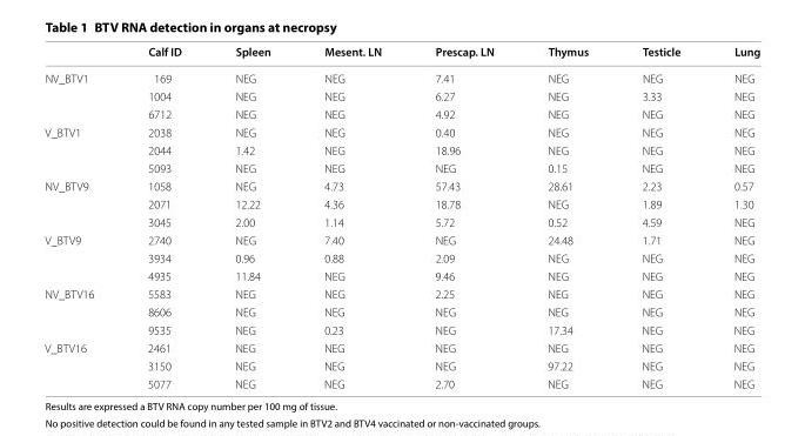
<table><thead><tr><td></td><td>Calf ID</td><td>Spleen</td><td>Mesent. LN</td><td>Prescap. LN</td><td>Thymus</td><td>Testicle</td><td>Lung</td></tr></thead><tbody><tr><td rowspan="3">NV_BTV1</td><td>169</td><td>NEG</td><td>NEG</td><td>7.41</td><td>NEG</td><td>NEG</td><td>NEG</td></tr><tr><td>1004</td><td>NEG</td><td>NEG</td><td>6.27</td><td>NEG</td><td>3.33</td><td>NEG</td></tr><tr><td>6712</td><td>NEG</td><td>NEG</td><td>4.92</td><td>NEG</td><td>NEG</td><td>NEG</td></tr><tr><td rowspan="3">V_BTV1</td><td>2038</td><td>NEG</td><td>NEG</td><td>0.40</td><td>NEG</td><td>NEG</td><td>NEG</td></tr><tr><td>2044</td><td>1.42</td><td>NEG</td><td>18.96</td><td>NEG</td><td>NEG</td><td>NEG</td></tr><tr><td>5093</td><td>NEG</td><td>NEG</td><td>NEG</td><td>0.15</td><td>NEG</td><td>NEG</td></tr><tr><td rowspan="3">NV_BTV9</td><td>1058</td><td>NEG</td><td>4.73</td><td>57.43</td><td>28.61</td><td>2.23</td><td>0.57</td></tr><tr><td>2071</td><td>12.22</td><td>4.36</td><td>18.78</td><td>NEG</td><td>1.89</td><td>1.30</td></tr><tr><td>3045</td><td>2.00</td><td>1.14</td><td>5.72</td><td>0.52</td><td>4.59</td><td>NEG</td></tr><tr><td rowspan="3">V_BTV9</td><td>2740</td><td>NEG</td><td>7.40</td><td>NEG</td><td>24.48</td><td>1.71</td><td>NEG</td></tr><tr><td>3934</td><td>0.96</td><td>0.88</td><td>2.09</td><td>NEG</td><td>NEG</td><td>NEG</td></tr><tr><td>4935</td><td>11.84</td><td>NEG</td><td>9.46</td><td>NEG</td><td>NEG</td><td>NEG</td></tr><tr><td rowspan="3">NV_BTV16</td><td>5583</td><td>NEG</td><td>NEG</td><td>2.25</td><td>NEG</td><td>NEG</td><td>NEG</td></tr><tr><td>8606</td><td>NEG</td><td>NEG</td><td>NEG</td><td>NEG</td><td>NEG</td><td>NEG</td></tr><tr><td>9535</td><td>NEG</td><td>0.23</td><td>NEG</td><td>17.34</td><td>NEG</td><td>NEG</td></tr><tr><td rowspan="3">V_BTV16</td><td>2461</td><td>NEG</td><td>NEG</td><td>NEG</td><td>NEG</td><td>NEG</td><td>NEG</td></tr><tr><td>3150</td><td>NEG</td><td>NEG</td><td>NEG</td><td>97.22</td><td>NEG</td><td>NEG</td></tr><tr><td>5077</td><td>NEG</td><td>NEG</td><td>2.70</td><td>NEG</td><td>NEG</td><td>NEG</td></tr></tbody></table>